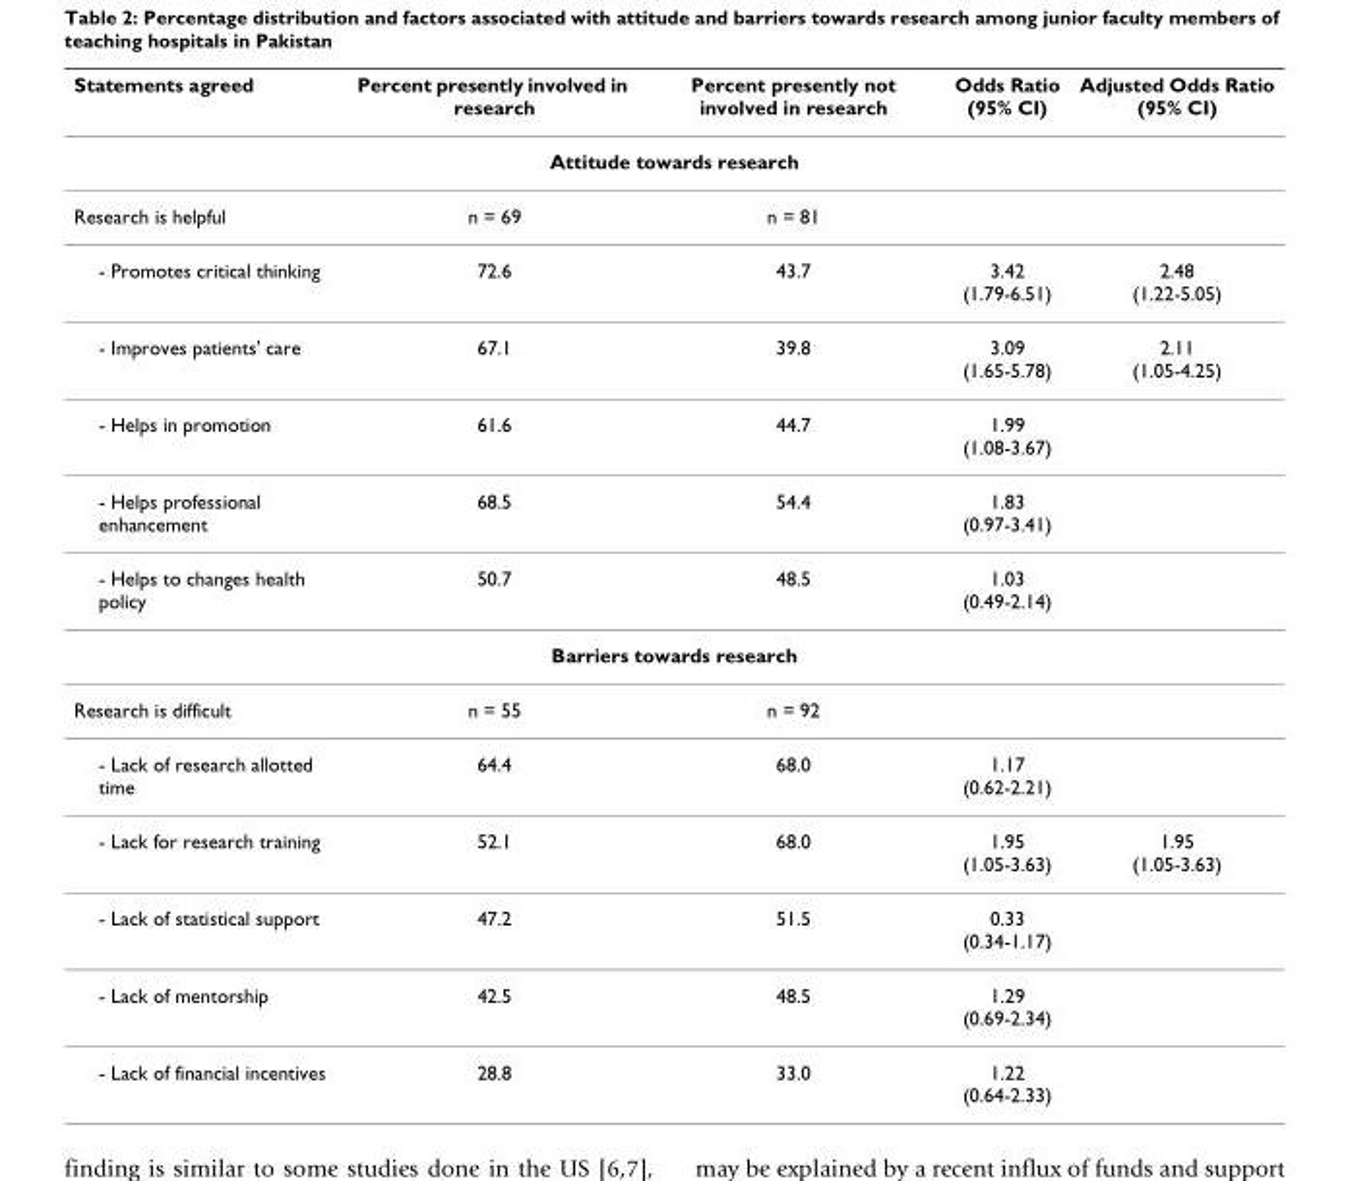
<table><thead><tr><td>Statements agreed</td><td>Percent presently involved in research</td><td>Percent presently not involved in research</td><td>Odds Ratio (95% CI)</td><td>Adjusted Odds Ratio (95% CI)</td></tr></thead><tbody><tr><td colspan="5">Attitude towards research</td></tr><tr><td>Research is helpful</td><td>n = 69</td><td>n = 81</td><td></td><td></td></tr><tr><td>- Promotes critical thinking</td><td>72.6</td><td>43.7</td><td>3.42 (1.79-6.51)</td><td>2.48 (1.22-5.05)</td></tr><tr><td>- Improves patients&#x27; care</td><td>67.1</td><td>39.8</td><td>3.09 (1.65-5.78)</td><td>2.11 (1.05-4.25)</td></tr><tr><td>- Helps in promotion</td><td>61.6</td><td>44.7</td><td>1.99 (1.08-3.67)</td><td></td></tr><tr><td>- Helps professional enhancement</td><td>68.5</td><td>54.4</td><td>1.83 (0.97-3.41)</td><td></td></tr><tr><td>- Helps to changes health policy</td><td>50.7</td><td>48.5</td><td>1.03 (0.49-2.14)</td><td></td></tr><tr><td colspan="5">Barriers towards research</td></tr><tr><td>Research is difficult</td><td>n = 55</td><td>n = 92</td><td></td><td></td></tr><tr><td>- Lack of research allotted time</td><td>64.4</td><td>68.0</td><td>1.17 (0.62-2.21)</td><td></td></tr><tr><td>- Lack for research training</td><td>52.1</td><td>68.0</td><td>1.95 (1.05-3.63)</td><td>1.95 (1.05-3.63)</td></tr><tr><td>- Lack of statistical support</td><td>47.2</td><td>51.5</td><td>0.33 (0.34-1.17)</td><td></td></tr><tr><td>- Lack of mentorship</td><td>42.5</td><td>48.5</td><td>1.29 (0.69-2.34)</td><td></td></tr><tr><td>- Lack of financial incentives</td><td>28.8</td><td>33.0</td><td>1.22 (0.64-2.33)</td><td></td></tr></tbody></table>